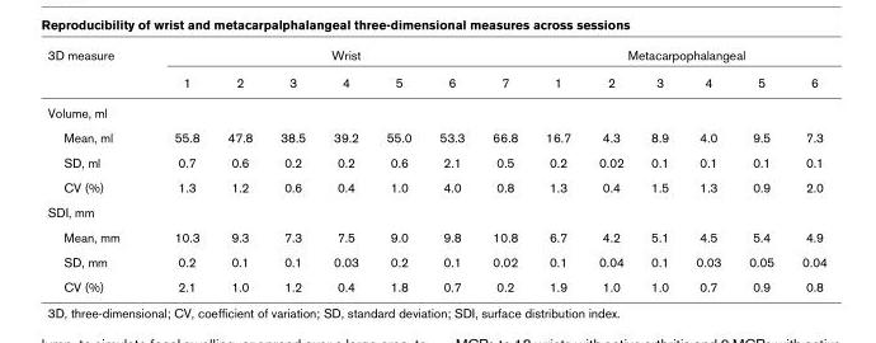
<table><thead><tr><td rowspan="2">3D measure</td><td colspan="7">Wrist</td><td colspan="6">Metacarpophalangeal</td></tr><tr><td>1</td><td>2</td><td>3</td><td>4</td><td>5</td><td>6</td><td>7</td><td>1</td><td>2</td><td>3</td><td>4</td><td>5</td><td>6</td></tr></thead><tbody><tr><td colspan="14">Volume, ml</td></tr><tr><td>Mean, ml</td><td>55.8</td><td>47.8</td><td>38.5</td><td>39.2</td><td>55.0</td><td>53.3</td><td>66.8</td><td>16.7</td><td>4.3</td><td>8.9</td><td>4.0</td><td>9.5</td><td>7.3</td></tr><tr><td>SD, ml</td><td>0.7</td><td>0.6</td><td>0.2</td><td>0.2</td><td>0.6</td><td>2.1</td><td>0.5</td><td>0.2</td><td>0.02</td><td>0.1</td><td>0.1</td><td>0.1</td><td>0.1</td></tr><tr><td>CV (%)</td><td>1.3</td><td>1.2</td><td>0.6</td><td>0.4</td><td>1.0</td><td>4.0</td><td>0.8</td><td>1.3</td><td>0.4</td><td>1.5</td><td>1.3</td><td>0.9</td><td>2.0</td></tr><tr><td colspan="14">SDI, mm</td></tr><tr><td>Mean, mm</td><td>10.3</td><td>9.3</td><td>7.3</td><td>7.5</td><td>9.0</td><td>9.8</td><td>10.8</td><td>6.7</td><td>4.2</td><td>5.1</td><td>4.5</td><td>5.4</td><td>4.9</td></tr><tr><td>SD, mm</td><td>0.2</td><td>0.1</td><td>0.1</td><td>0.03</td><td>0.2</td><td>0.1</td><td>0.02</td><td>0.1</td><td>0.04</td><td>0.1</td><td>0.03</td><td>0.05</td><td>0.04</td></tr><tr><td>CV (%)</td><td>2.1</td><td>1.0</td><td>1.2</td><td>0.4</td><td>1.8</td><td>0.7</td><td>0.2</td><td>1.9</td><td>1.0</td><td>1.0</td><td>0.7</td><td>0.9</td><td>0.8</td></tr></tbody></table>